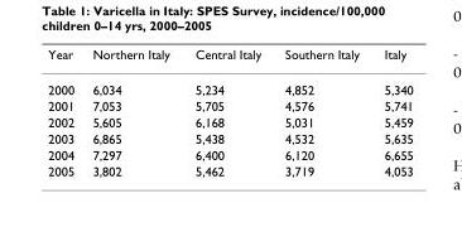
<table><thead><tr><td>Year</td><td>Northern Italy</td><td>Central Italy</td><td>Southern Italy</td><td>Italy</td></tr></thead><tbody><tr><td>2000</td><td>6,034</td><td>5,234</td><td>4,852</td><td>5,340</td></tr><tr><td>2001</td><td>7,053</td><td>5,705</td><td>4,576</td><td>5,741</td></tr><tr><td>2002</td><td>5,605</td><td>6,168</td><td>5,031</td><td>5,459</td></tr><tr><td>2003</td><td>6,865</td><td>5,438</td><td>4,532</td><td>5,635</td></tr><tr><td>2004</td><td>7,297</td><td>6,400</td><td>6,120</td><td>6,655</td></tr><tr><td>2005</td><td>3,802</td><td>5,462</td><td>3,719</td><td>4,053</td></tr></tbody></table>